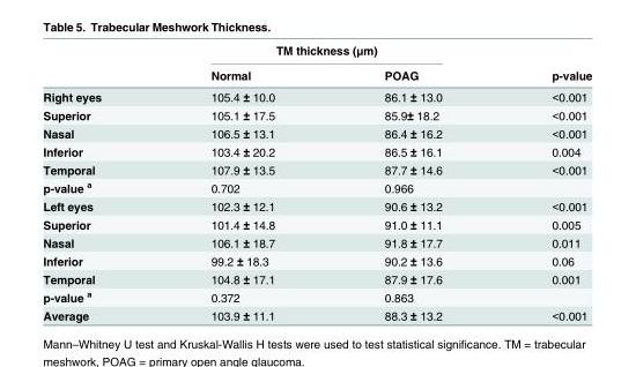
<table><thead><tr><td rowspan="2"></td><td colspan="2">TM thickness (μm)</td><td rowspan="2">p-value</td></tr><tr><td>Normal</td><td>POAG</td></tr></thead><tbody><tr><td>Right eyes</td><td>105.4 ± 10.0</td><td>86.1 ± 13.0</td><td>&lt;0.001</td></tr><tr><td>Superior</td><td>105.1 ± 17.5</td><td>85.9± 18.2</td><td>&lt;0.001</td></tr><tr><td>Nasal</td><td>106.5 ± 13.1</td><td>86.4 ± 16.2</td><td>&lt;0.001</td></tr><tr><td>Inferior</td><td>103.4 ± 20.2</td><td>86.5 ± 16.1</td><td>0.004</td></tr><tr><td>Temporal</td><td>107.9 ± 13.5</td><td>87.7 ± 14.6</td><td>&lt;0.001</td></tr><tr><td>p-value <sup>a</sup></td><td>0.702</td><td>0.966</td><td></td></tr><tr><td>Left eyes</td><td>102.3 ± 12.1</td><td>90.6 ± 13.2</td><td>&lt;0.001</td></tr><tr><td>Superior</td><td>101.4 ± 14.8</td><td>91.0 ± 11.1</td><td>0.005</td></tr><tr><td>Nasal</td><td>106.1 ± 18.7</td><td>91.8 ± 17.7</td><td>0.011</td></tr><tr><td>Inferior</td><td>99.2 ± 18.3</td><td>90.2 ± 13.6</td><td>0.06</td></tr><tr><td>Temporal</td><td>104.8 ± 17.1</td><td>87.9 ± 17.6</td><td>0.001</td></tr><tr><td>p-value <sup>a</sup></td><td>0.372</td><td>0.863</td><td></td></tr><tr><td>Average</td><td>103.9 ± 11.1</td><td>88.3 ± 13.2</td><td>&lt;0.001</td></tr></tbody></table>